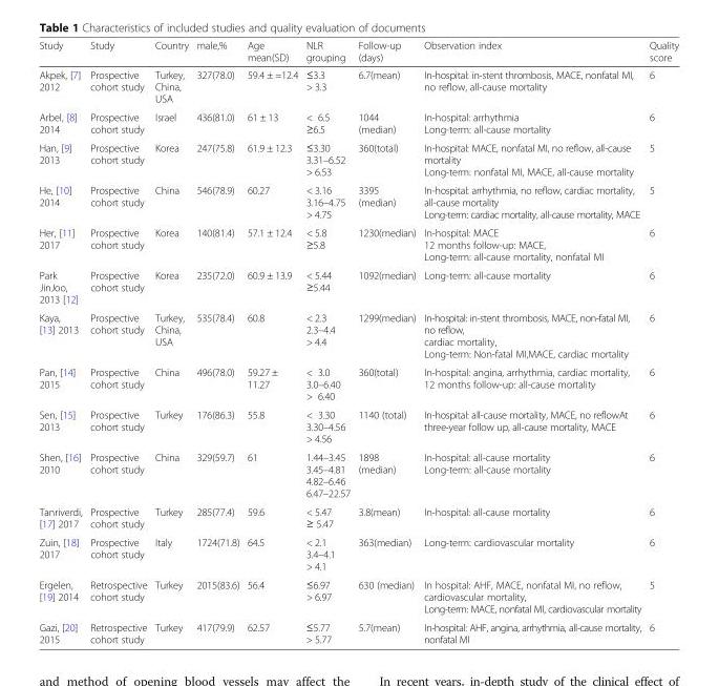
<table><thead><tr><td>Study</td><td>Study</td><td>Country</td><td>male,%</td><td>Age mean(SD)</td><td>NLR grouping</td><td>Follow-up (days)</td><td>Observation index</td><td>Quality score</td></tr></thead><tbody><tr><td>Akpek, [7] 2012</td><td>Prospective cohort study</td><td>Turkey, China, USA</td><td>327(78.0)</td><td>59.4 ± =12.4</td><td>≤3.3 &gt; 3.3</td><td>6.7(mean)</td><td>In-hospital: in-stent thrombosis, MACE, nonfatal MI, no reflow, all-cause mortality</td><td>6</td></tr><tr><td>Arbel, [8] 2014</td><td>Prospective cohort study</td><td>Israel</td><td>436(81.0)</td><td>61 ± 13</td><td>&lt; 6.5 ≥6.5</td><td>1044 (median)</td><td>In-hospital: arrhythmia Long-term: all-cause mortality</td><td>6</td></tr><tr><td>Han, [9] 2013</td><td>Prospective cohort study</td><td>Korea</td><td>247(75.8)</td><td>61.9 ± 12.3</td><td>≤3.30 3.31–6.52 &gt; 6.53</td><td>360(total)</td><td>In-hospital: MACE, nonfatal MI, no reflow, all-cause mortality Long-term: nonfatal MI, MACE, all-cause mortality</td><td>5</td></tr><tr><td>He, [10] 2014</td><td>Prospective cohort study</td><td>China</td><td>546(78.9)</td><td>60.27</td><td>&lt; 3.16 3.16–4.75 &gt; 4.75</td><td>3395 (median)</td><td>In-hospital: arrhythmia, no reflow, cardiac mortality, all-cause mortality Long-term: cardiac mortality, all-cause mortality, MACE</td><td>5</td></tr><tr><td>Her, [11] 2017</td><td>Prospective cohort study</td><td>Korea</td><td>140(81.4)</td><td>57.1 ± 12.4</td><td>&lt; 5.8 ≥5.8</td><td>1230(median)</td><td>In-hospital: MACE 12 months follow-up: MACE, Long-term: all-cause mortality, nonfatal MI</td><td>6</td></tr><tr><td>Park JinJoo, 2013 [12]</td><td>Prospective cohort study</td><td>Korea</td><td>235(72.0)</td><td>60.9 ± 13.9</td><td>&lt; 5.44 ≥5.44</td><td>1092(median)</td><td>Long-term: all-cause mortality</td><td>6</td></tr><tr><td>Kaya, [13] 2013</td><td>Prospective cohort study</td><td>Turkey, China, USA</td><td>535(78.4)</td><td>60.8</td><td>&lt; 2.3 2.3–4.4 &gt; 4.4</td><td>1299(median)</td><td>In-hospital: in-stent thrombosis, MACE, non-fatal MI, no reflow, cardiac mortality, Long-term: Non-fatal MI,MACE, cardiac mortality</td><td>6</td></tr><tr><td>Pan, [14] 2015</td><td>Prospective cohort study</td><td>China</td><td>496(78.0)</td><td>59.27 ± 11.27</td><td>&lt; 3.0 3.0–6.40 &gt; 6.40</td><td>360(total)</td><td>In-hospital: angina, arrhythmia, cardiac mortality, 12 months follow-up: all-cause mortality</td><td>6</td></tr><tr><td>Sen, [15] 2013</td><td>Prospective cohort study</td><td>Turkey</td><td>176(86.3)</td><td>55.8</td><td>&lt; 3.30 3.30–4.56 &gt; 4.56</td><td>1140 (total)</td><td>In-hospital: all-cause mortality, MACE, no reflowAt three-year follow up, all-cause mortality, MACE</td><td>6</td></tr><tr><td>Shen, [16] 2010</td><td>Prospective cohort study</td><td>China</td><td>329(59.7)</td><td>61</td><td>1.44–3.45 3.45–4.81 4.82–6.46 6.47–22.57</td><td>1898 (median)</td><td>In-hospital: all-cause mortality Long-term: all-cause mortality</td><td>6</td></tr><tr><td>Tanriverdi, [17] 2017</td><td>Prospective cohort study</td><td>Turkey</td><td>285(77.4)</td><td>59.6</td><td>&lt; 5.47 ≥ 5.47</td><td>3.8(mean)</td><td>In-hospital: all-cause mortality</td><td>6</td></tr><tr><td>Zuin, [18] 2017</td><td>Prospective cohort study</td><td>Italy</td><td>1724(71.8)</td><td>64.5</td><td>&lt; 2.1 3.4–4.1 &gt; 4.1</td><td>363(median)</td><td>Long-term: cardiovascular mortality</td><td>6</td></tr><tr><td>Ergelen, [19] 2014</td><td>Retrospective cohort study</td><td>Turkey</td><td>2015(83.6)</td><td>56.4</td><td>≤6.97 &gt; 6.97</td><td>630 (median)</td><td>In hospital: AHF, MACE, nonfatal MI, no reflow, cardiovascular mortality, Long-term: MACE, nonfatal MI, cardiovascular mortality</td><td>5</td></tr><tr><td>Gazi, [20] 2015</td><td>Retrospective cohort study</td><td>Turkey</td><td>417(79.9)</td><td>62.57</td><td>≤5.77 &gt; 5.77</td><td>5.7(mean)</td><td>In-hospital: AHF, angina, arrhythmia, all-cause mortality, nonfatal MI</td><td>6</td></tr></tbody></table>